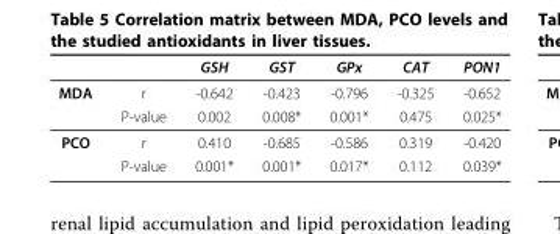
<table><thead><tr><td></td><td></td><td>GSH</td><td>GST</td><td>GPx</td><td>CAT</td><td>PON1</td></tr></thead><tbody><tr><td rowspan="2">MDA</td><td>r</td><td>-0.642</td><td>-0.423</td><td>-0.796</td><td>-0.325</td><td>-0.652</td></tr><tr><td>P-value</td><td>0.002</td><td>0.008*</td><td>0.001*</td><td>0.475</td><td>0.025*</td></tr><tr><td rowspan="2">PCO</td><td>r</td><td>0.410</td><td>-0.685</td><td>-0.586</td><td>0.319</td><td>-0.420</td></tr><tr><td>P-value</td><td>0.001*</td><td>0.001*</td><td>0.017*</td><td>0.112</td><td>0.039*</td></tr></tbody></table>